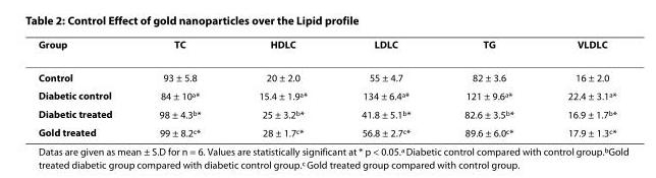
<table><thead><tr><td>Group</td><td>TC</td><td>HDLC</td><td>LDLC</td><td>TG</td><td>VLDLC</td></tr></thead><tbody><tr><td>Control</td><td>93 ± 5.8</td><td>20 ± 2.0</td><td>55 ± 4.7</td><td>82 ± 3.6</td><td>16 ± 2.0</td></tr><tr><td>Diabetic control</td><td>84 ± 10<sup>a</sup>*</td><td>15.4 ± 1.9<sup>a</sup>*</td><td>134 ± 6.4<sup>a</sup>*</td><td>121 ± 9.6<sup>a</sup>*</td><td>22.4 ± 3.1<sup>a</sup>*</td></tr><tr><td>Diabetic treated</td><td>98 ± 4.3<sup>b</sup>*</td><td>25 ± 3.2<sup>b</sup>*</td><td>41.8 ± 5.1<sup>b</sup>*</td><td>82.6 ± 3.5<sup>b</sup>*</td><td>16.9 ± 1.7<sup>b</sup>*</td></tr><tr><td>Gold treated</td><td>99 ± 8.2<sup>c</sup>*</td><td>28 ± 1.7<sup>c</sup>*</td><td>56.8 ± 2.7<sup>c</sup>*</td><td>89.6 ± 6.0<sup>c</sup>*</td><td>17.9 ± 1.3<sup>c</sup>*</td></tr></tbody></table>